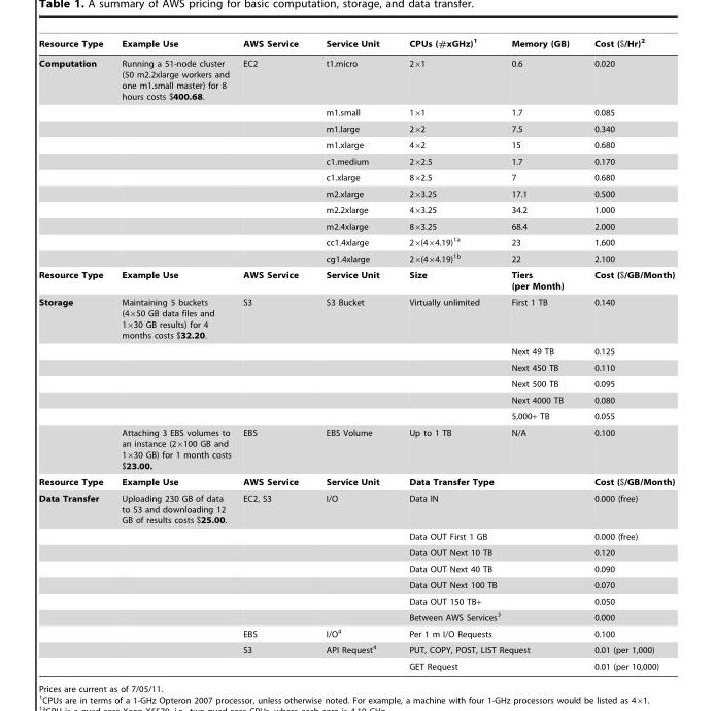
<table><thead><tr><td>Resource Type</td><td>Example Use</td><td>AWS Service</td><td>Service Unit</td><td>CPUs (#xGHz)<sup>1</sup></td><td>Memory (GB)</td><td>Cost ($/Hr)<sup>2</sup></td></tr></thead><tbody><tr><td rowspan="11">Computation</td><td>Running a 51-node cluster (50 m2.2xlarge workers and one m1.small master) for 8 hours costs $400.68.</td><td>EC2</td><td>t1.micro</td><td>2×1</td><td>0.6</td><td>0.020</td></tr><tr><td></td><td></td><td>m1.small</td><td>1×1</td><td>1.7</td><td>0.085</td></tr><tr><td></td><td></td><td>m1.large</td><td>2×2</td><td>7.5</td><td>0.340</td></tr><tr><td></td><td></td><td>m1.xlarge</td><td>4×2</td><td>15</td><td>0.680</td></tr><tr><td></td><td></td><td>c1.medium</td><td>2×2.5</td><td>1.7</td><td>0.170</td></tr><tr><td></td><td></td><td>c1.xlarge</td><td>8×2.5</td><td>7</td><td>0.680</td></tr><tr><td></td><td></td><td>m2.xlarge</td><td>2×3.25</td><td>17.1</td><td>0.500</td></tr><tr><td></td><td></td><td>m2.2xlarge</td><td>4×3.25</td><td>34.2</td><td>1.000</td></tr><tr><td></td><td></td><td>m2.4xlarge</td><td>8×3.25</td><td>68.4</td><td>2.000</td></tr><tr><td></td><td></td><td>cc1.4xlarge</td><td>2×(4×4.19)1a</td><td>23</td><td>1.600</td></tr><tr><td></td><td></td><td>cg1.4xlarge</td><td>2×(4×4.19)1b</td><td>22</td><td>2.100</td></tr><tr><td>Resource Type</td><td>Example Use</td><td>AWS Service</td><td>Service Unit</td><td>Size</td><td>Tiers (per Month)</td><td>Cost ($/GB/Month)</td></tr><tr><td rowspan="7">Storage</td><td>Maintaining 5 buckets (4×50 GB data files and 1×30 GB results) for 4 months costs $32.20.</td><td>S3</td><td>S3 Bucket</td><td>Virtually unlimited</td><td>First 1 TB</td><td>0.140</td></tr><tr><td></td><td></td><td></td><td></td><td>Next 49 TB</td><td>0.125</td></tr><tr><td></td><td></td><td></td><td></td><td>Next 450 TB</td><td>0.110</td></tr><tr><td></td><td></td><td></td><td></td><td>Next 500 TB</td><td>0.095</td></tr><tr><td></td><td></td><td></td><td></td><td>Next 4000 TB</td><td>0.080</td></tr><tr><td></td><td></td><td></td><td></td><td>5,000+ TB</td><td>0.055</td></tr><tr><td>Attaching 3 EBS volumes to an instance (2×100 GB and 1×30 GB) for 1 month costs $23.00.</td><td>EBS</td><td>EBS Volume</td><td>Up to 1 TB</td><td>N/A</td><td>0.100</td></tr><tr><td>Resource Type</td><td>Example Use</td><td>AWS Service</td><td>Service Unit</td><td colspan="2">Data Transfer Type</td><td>Cost ($/GB/Month)</td></tr><tr><td rowspan="10">Data Transfer</td><td>Uploading 230 GB of data to S3 and downloading 12 GB of results costs $25.00.</td><td>EC2, S3</td><td>I/O</td><td colspan="2">Data IN</td><td>0.000 (free)</td></tr><tr><td></td><td></td><td></td><td colspan="2">Data OUT First 1 GB</td><td>0.000 (free)</td></tr><tr><td></td><td></td><td></td><td colspan="2">Data OUT Next 10 TB</td><td>0.120</td></tr><tr><td></td><td></td><td></td><td colspan="2">Data OUT Next 40 TB</td><td>0.090</td></tr><tr><td></td><td></td><td></td><td colspan="2">Data OUT Next 100 TB</td><td>0.070</td></tr><tr><td></td><td></td><td></td><td colspan="2">Data OUT 150 TB+</td><td>0.050</td></tr><tr><td></td><td></td><td></td><td colspan="2">Between AWS Services<sup>3</sup></td><td>0.000</td></tr><tr><td></td><td>EBS</td><td>I/O<sup>4</sup></td><td colspan="2">Per 1 m I/O Requests</td><td>0.100</td></tr><tr><td></td><td>S3</td><td>API Request<sup>4</sup></td><td colspan="2">PUT, COPY, POST, LIST Request</td><td>0.01 (per 1,000)</td></tr><tr><td></td><td></td><td></td><td colspan="2">GET Request</td><td>0.01 (per 10,000)</td></tr></tbody></table>